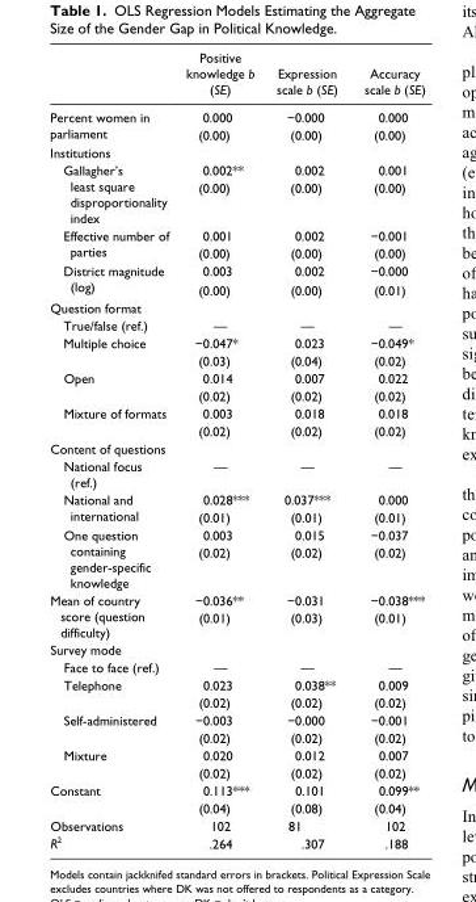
<table><thead><tr><td></td><td>Positive knowledge b (SE)</td><td>Expression scale b (SE)</td><td>Accuracy scale b (SE)</td></tr></thead><tbody><tr><td rowspan="2">Percent women in parliament</td><td>0.000</td><td>−0.000</td><td>0.000</td></tr><tr><td>(0.00)</td><td>(0.00)</td><td>(0.00)</td></tr><tr><td colspan="4">Institutions</td></tr><tr><td rowspan="2">Gallagher’s least square disproportionality index</td><td>0.002**</td><td>0.002</td><td>0.001</td></tr><tr><td>(0.00)</td><td>(0.00)</td><td>(0.00)</td></tr><tr><td rowspan="2">Effective number of parties</td><td>0.001</td><td>0.002</td><td>−0.001</td></tr><tr><td>(0.00)</td><td>(0.00)</td><td>(0.00)</td></tr><tr><td rowspan="2">District magnitude (log)</td><td>0.003</td><td>0.002</td><td>−0.000</td></tr><tr><td>(0.00)</td><td>(0.00)</td><td>(0.01)</td></tr><tr><td colspan="4">Question format</td></tr><tr><td>True/false (ref.)</td><td>—</td><td>—</td><td>—</td></tr><tr><td rowspan="2">Multiple choice</td><td>−0.047*</td><td>0.023</td><td>−0.049*</td></tr><tr><td>(0.03)</td><td>(0.04)</td><td>(0.02)</td></tr><tr><td rowspan="2">Open</td><td>0.014</td><td>0.007</td><td>0.022</td></tr><tr><td>(0.02)</td><td>(0.02)</td><td>(0.02)</td></tr><tr><td rowspan="2">Mixture of formats</td><td>0.003</td><td>0.018</td><td>0.018</td></tr><tr><td>(0.02)</td><td>(0.02)</td><td>(0.02)</td></tr><tr><td colspan="4">Content of questions</td></tr><tr><td>National focus (ref.)</td><td>—</td><td>—</td><td>—</td></tr><tr><td rowspan="2">National and international</td><td>0.028***</td><td>0.037***</td><td>0.000</td></tr><tr><td>(0.01)</td><td>(0.01)</td><td>(0.01)</td></tr><tr><td rowspan="2">One question containing gender-specific knowledge</td><td>0.003</td><td>0.015</td><td>−0.037</td></tr><tr><td>(0.02)</td><td>(0.02)</td><td>(0.02)</td></tr><tr><td rowspan="2">Mean of country score (question difficulty)</td><td>−0.036**</td><td>−0.031</td><td>−0.038***</td></tr><tr><td>(0.01)</td><td>(0.03)</td><td>(0.01)</td></tr><tr><td colspan="4">Survey mode</td></tr><tr><td>Face to face (ref.)</td><td>—</td><td>—</td><td>—</td></tr><tr><td rowspan="2">Telephone</td><td>0.023</td><td>0.038**</td><td>0.009</td></tr><tr><td>(0.02)</td><td>(0.02)</td><td>(0.02)</td></tr><tr><td rowspan="2">Self-administered</td><td>−0.003</td><td>−0.000</td><td>−0.001</td></tr><tr><td>(0.02)</td><td>(0.02)</td><td>(0.02)</td></tr><tr><td rowspan="2">Mixture</td><td>0.020</td><td>0.012</td><td>0.007</td></tr><tr><td>(0.02)</td><td>(0.02)</td><td>(0.02)</td></tr><tr><td rowspan="2">Constant</td><td>0.113***</td><td>0.101</td><td>0.099**</td></tr><tr><td>(0.04)</td><td>(0.08)</td><td>(0.04)</td></tr><tr><td>Observations</td><td>102</td><td>81</td><td>102</td></tr><tr><td>R<sup>2</sup></td><td>.264</td><td>.307</td><td>.188</td></tr></tbody></table>